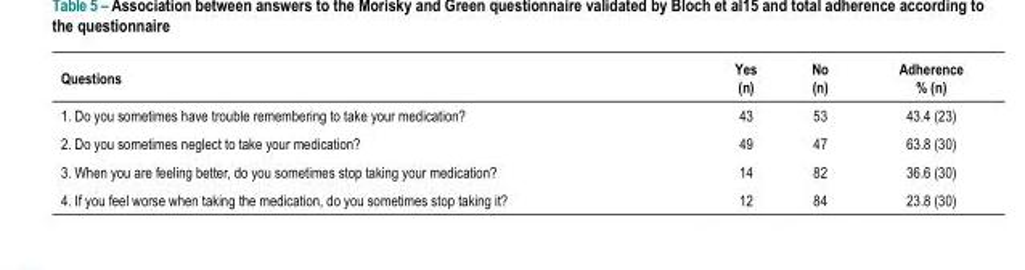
<table><thead><tr><td>Questions</td><td>Yes (n)</td><td>No (n)</td><td>Adherence % (n)</td></tr></thead><tbody><tr><td>1. Do you sometimes have trouble remembering to take your medication?</td><td>43</td><td>53</td><td>43.4 (23)</td></tr><tr><td>2. Do you sometimes neglect to take your medication?</td><td>49</td><td>47</td><td>63.8 (30)</td></tr><tr><td>3. When you are feeling better, do you sometimes stop taking your medication?</td><td>14</td><td>82</td><td>36.6 (30)</td></tr><tr><td>4. If you feel worse when taking the medication, do you sometimes stop taking it?</td><td>12</td><td>84</td><td>23.8 (30)</td></tr></tbody></table>